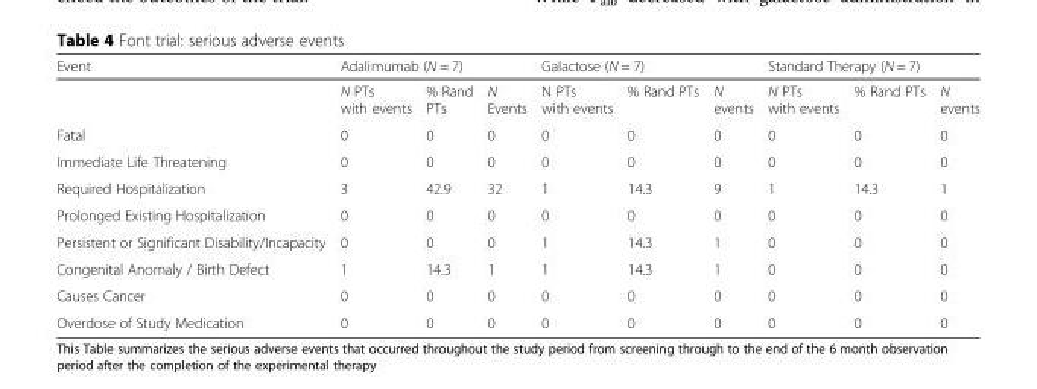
<table><thead><tr><td rowspan="2">Event</td><td colspan="3">Adalimumab (N = 7)</td><td colspan="3">Galactose (N = 7)</td><td colspan="3">Standard Therapy (N = 7)</td></tr><tr><td>N PTs with events</td><td>% Rand PTs</td><td>N Events</td><td>N PTs with events</td><td>% Rand PTs</td><td>N events</td><td>N PTs with events</td><td>% Rand PTs</td><td>N events</td></tr></thead><tbody><tr><td>Fatal</td><td>0</td><td>0</td><td>0</td><td>0</td><td>0</td><td>0</td><td>0</td><td>0</td><td>0</td></tr><tr><td>Immediate Life Threatening</td><td>0</td><td>0</td><td>0</td><td>0</td><td>0</td><td>0</td><td>0</td><td>0</td><td>0</td></tr><tr><td>Required Hospitalization</td><td>3</td><td>42.9</td><td>32</td><td>1</td><td>14.3</td><td>9</td><td>1</td><td>14.3</td><td>1</td></tr><tr><td>Prolonged Existing Hospitalization</td><td>0</td><td>0</td><td>0</td><td>0</td><td>0</td><td>0</td><td>0</td><td>0</td><td>0</td></tr><tr><td>Persistent or Significant Disability/Incapacity</td><td>0</td><td>0</td><td>0</td><td>1</td><td>14.3</td><td>1</td><td>0</td><td>0</td><td>0</td></tr><tr><td>Congenital Anomaly / Birth Defect</td><td>1</td><td>14.3</td><td>1</td><td>1</td><td>14.3</td><td>1</td><td>0</td><td>0</td><td>0</td></tr><tr><td>Causes Cancer</td><td>0</td><td>0</td><td>0</td><td>0</td><td>0</td><td>0</td><td>0</td><td>0</td><td>0</td></tr><tr><td>Overdose of Study Medication</td><td>0</td><td>0</td><td>0</td><td>0</td><td>0</td><td>0</td><td>0</td><td>0</td><td>0</td></tr></tbody></table>